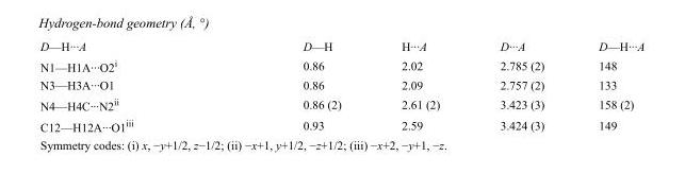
<table><tbody><tr><td>D—H···A</td><td>D—H</td><td>H···A</td><td>D···A</td><td>D—H···A</td></tr><tr><td>N1—H1A···O2<sup>i</sup></td><td>0.86</td><td>2.02</td><td>2.785 (2)</td><td>148</td></tr><tr><td>N3—H3A···O1</td><td>0.86</td><td>2.09</td><td>2.757 (2)</td><td>133</td></tr><tr><td>N4—H4C···N2<sup>ii</sup></td><td>0.86 (2)</td><td>2.61 (2)</td><td>3.423 (3)</td><td>158 (2)</td></tr><tr><td>C12—H12A···O1<sup>iii</sup></td><td>0.93</td><td>2.59</td><td>3.424 (3)</td><td>149</td></tr></tbody></table>